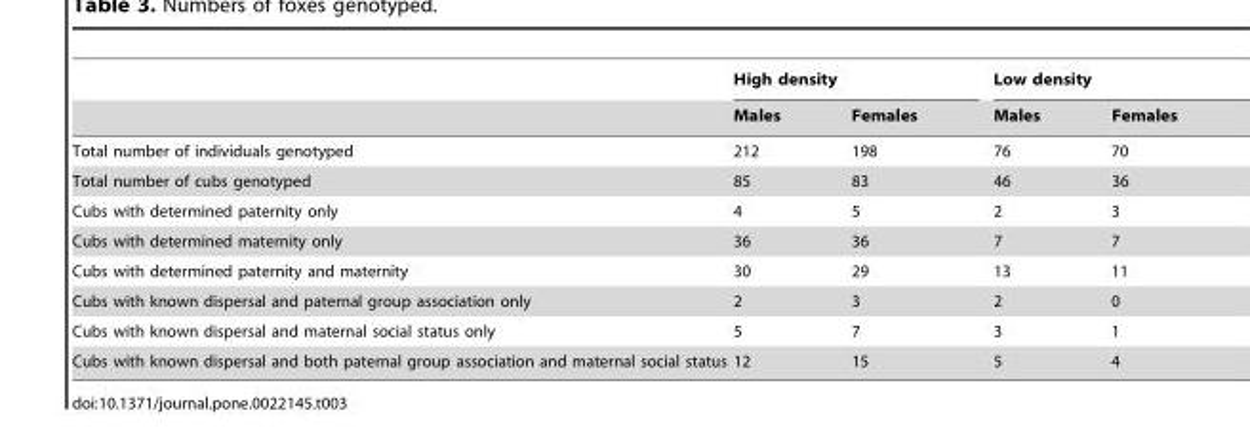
<table><thead><tr><td rowspan="2"></td><td colspan="2">High density</td><td colspan="2">Low density</td></tr><tr><td>Males</td><td>Females</td><td>Males</td><td>Females</td></tr></thead><tbody><tr><td>Total number of individuals genotyped</td><td>212</td><td>198</td><td>76</td><td>70</td></tr><tr><td>Total number of cubs genotyped</td><td>85</td><td>83</td><td>46</td><td>36</td></tr><tr><td>Cubs with determined paternity only</td><td>4</td><td>5</td><td>2</td><td>3</td></tr><tr><td>Cubs with determined maternity only</td><td>36</td><td>36</td><td>7</td><td>7</td></tr><tr><td>Cubs with determined paternity and maternity</td><td>30</td><td>29</td><td>13</td><td>11</td></tr><tr><td>Cubs with known dispersal and paternal group association only</td><td>2</td><td>3</td><td>2</td><td>0</td></tr><tr><td>Cubs with known dispersal and maternal social status only</td><td>5</td><td>7</td><td>3</td><td>1</td></tr><tr><td>Cubs with known dispersal and both paternal group association and maternal social status</td><td>12</td><td>15</td><td>5</td><td>4</td></tr></tbody></table>